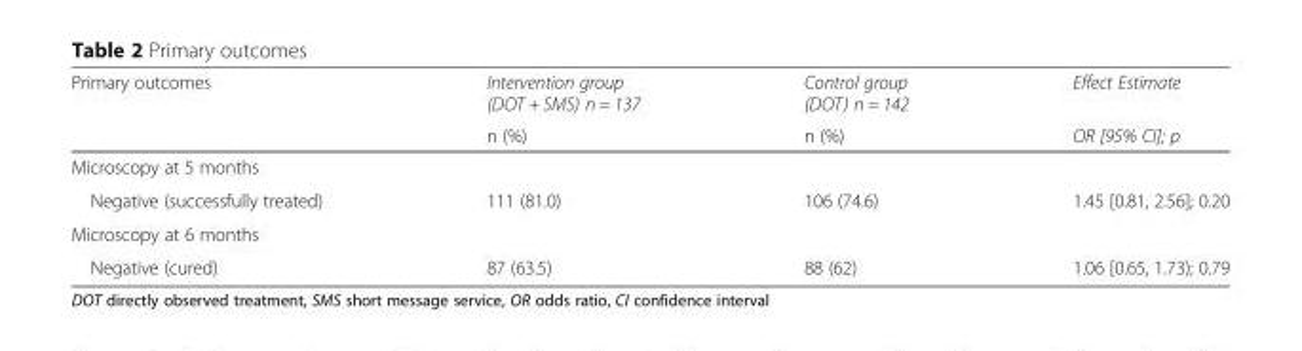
<table><thead><tr><td rowspan="2">Primary outcomes</td><td rowspan="2">Intervention group (DOT + SMS) n = 137 n (%)</td><td rowspan="2">Control group (DOT) n = 142 n (%)</td><td rowspan="2">Effect Estimate OR [95% CI]; p</td></tr><tr></tr></thead><tbody><tr><td colspan="4">Microscopy at 5 months</td></tr><tr><td>Negative (successfully treated)</td><td>111 (81.0)</td><td>106 (74.6)</td><td>1.45 [0.81, 2.56]; 0.20</td></tr><tr><td colspan="4">Microscopy at 6 months</td></tr><tr><td>Negative (cured)</td><td>87 (63.5)</td><td>88 (62)</td><td>1.06 [0.65, 1.73); 0.79</td></tr></tbody></table>